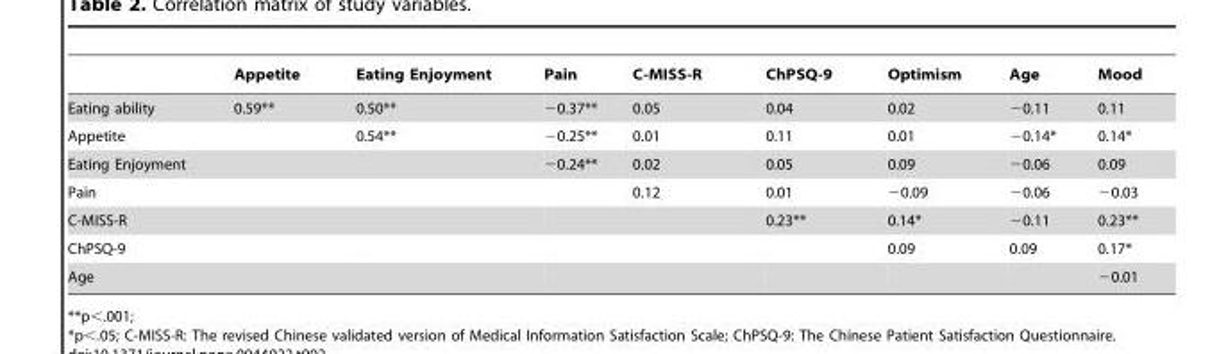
<table><thead><tr><td></td><td>Appetite</td><td>Eating Enjoyment</td><td>Pain</td><td>C-MISS-R</td><td>ChPSQ-9</td><td>Optimism</td><td>Age</td><td>Mood</td></tr></thead><tbody><tr><td>Eating ability</td><td>0.59**</td><td>0.50**</td><td>−0.37**</td><td>0.05</td><td>0.04</td><td>0.02</td><td>−0.11</td><td>0.11</td></tr><tr><td>Appetite</td><td></td><td>0.54**</td><td>−0.25**</td><td>0.01</td><td>0.11</td><td>0.01</td><td>−0.14*</td><td>0.14*</td></tr><tr><td>Eating Enjoyment</td><td></td><td></td><td>−0.24**</td><td>0.02</td><td>0.05</td><td>0.09</td><td>−0.06</td><td>0.09</td></tr><tr><td>Pain</td><td></td><td></td><td></td><td>0.12</td><td>0.01</td><td>−0.09</td><td>−0.06</td><td>−0.03</td></tr><tr><td>C-MISS-R</td><td></td><td></td><td></td><td></td><td>0.23**</td><td>0.14*</td><td>−0.11</td><td>0.23**</td></tr><tr><td>ChPSQ-9</td><td></td><td></td><td></td><td></td><td></td><td>0.09</td><td>0.09</td><td>0.17*</td></tr><tr><td>Age</td><td></td><td></td><td></td><td></td><td></td><td></td><td></td><td>−0.01</td></tr></tbody></table>